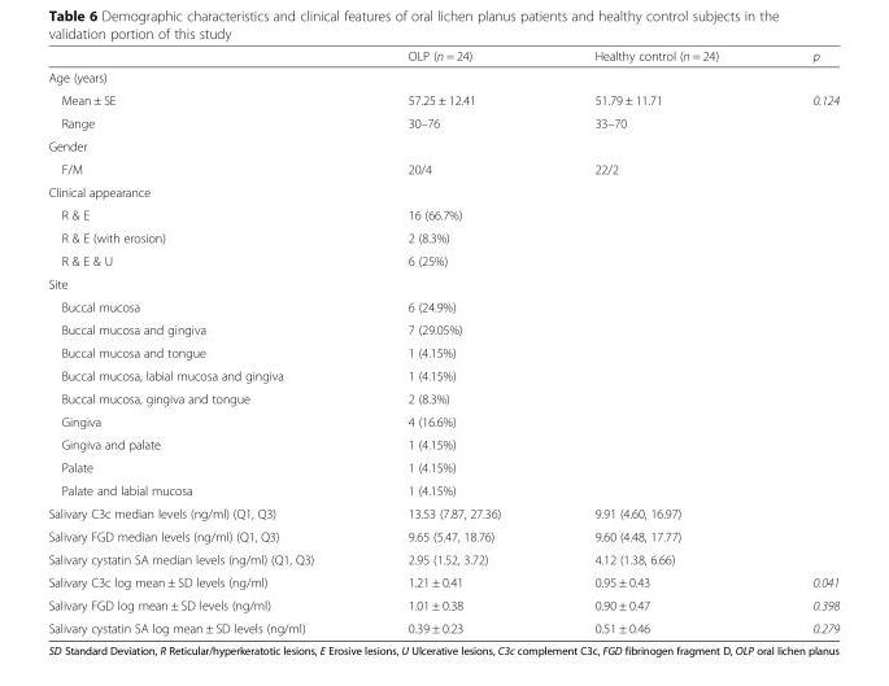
<table><thead><tr><td></td><td>OLP (n = 24)</td><td>Healthy control (n = 24)</td><td>p</td></tr></thead><tbody><tr><td colspan="4">Age (years)</td></tr><tr><td>Mean ± SE</td><td>57.25 ± 12.41</td><td>51.79 ± 11.71</td><td>0.124</td></tr><tr><td>Range</td><td>30–76</td><td>33–70</td><td></td></tr><tr><td colspan="4">Gender</td></tr><tr><td>F/M</td><td>20/4</td><td>22/2</td><td></td></tr><tr><td colspan="4">Clinical appearance</td></tr><tr><td>R &amp; E</td><td>16 (66.7%)</td><td></td><td></td></tr><tr><td>R &amp; E (with erosion)</td><td>2 (8.3%)</td><td></td><td></td></tr><tr><td>R &amp; E &amp; U</td><td>6 (25%)</td><td></td><td></td></tr><tr><td colspan="4">Site</td></tr><tr><td>Buccal mucosa</td><td>6 (24.9%)</td><td></td><td></td></tr><tr><td>Buccal mucosa and gingiva</td><td>7 (29.05%)</td><td></td><td></td></tr><tr><td>Buccal mucosa and tongue</td><td>1 (4.15%)</td><td></td><td></td></tr><tr><td>Buccal mucosa, labial mucosa and gingiva</td><td>1 (4.15%)</td><td></td><td></td></tr><tr><td>Buccal mucosa, gingiva and tongue</td><td>2 (8.3%)</td><td></td><td></td></tr><tr><td>Gingiva</td><td>4 (16.6%)</td><td></td><td></td></tr><tr><td>Gingiva and palate</td><td>1 (4.15%)</td><td></td><td></td></tr><tr><td>Palate</td><td>1 (4.15%)</td><td></td><td></td></tr><tr><td>Palate and labial mucosa</td><td>1 (4.15%)</td><td></td><td></td></tr><tr><td>Salivary C3c median levels (ng/ml) (Q1, Q3)</td><td>13.53 (7.87, 27.36)</td><td>9.91 (4.60, 16.97)</td><td></td></tr><tr><td>Salivary FGD median levels (ng/ml) (Q1, Q3)</td><td>9.65 (5.47, 18.76)</td><td>9.60 (4.48, 17.77)</td><td></td></tr><tr><td>Salivary cystatin SA median levels (ng/ml) (Q1, Q3)</td><td>2.95 (1.52, 3.72)</td><td>4.12 (1.38, 6.66)</td><td></td></tr><tr><td>Salivary C3c log mean ± SD levels (ng/ml)</td><td>1.21 ± 0.41</td><td>0.95 ± 0.43</td><td>0.041</td></tr><tr><td>Salivary FGD log mean ± SD levels (ng/ml)</td><td>1.01 ± 0.38</td><td>0.90 ± 0.47</td><td>0.398</td></tr><tr><td>Salivary cystatin SA log mean ± SD levels (ng/ml)</td><td>0.39 ± 0.23</td><td>0.51 ± 0.46</td><td>0.279</td></tr></tbody></table>